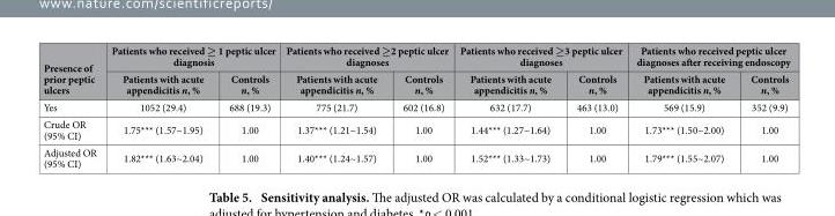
<table><thead><tr><td rowspan="2">Presence of prior peptic ulcers</td><td colspan="2">Patients who received ≥ 1 peptic ulcer diagnosis</td><td colspan="2">Patients who received ≥2 peptic ulcer diagnoses</td><td colspan="2">Patients who received ≥3 peptic ulcer diagnoses</td><td colspan="2">Patients who received peptic ulcer diagnoses after receiving endoscopy</td></tr><tr><td>Patients with acute appendicitis n, %</td><td>Controls n, %</td><td>Patients with acute appendicitis n, %</td><td>Controls n, %</td><td>Patients with acute appendicitis n, %</td><td>Controls n, %</td><td>Patients with acute appendicitis n, %</td><td>Controls n, %</td></tr></thead><tbody><tr><td>Yes</td><td>1052 (29.4)</td><td>688 (19.3)</td><td>775 (21.7)</td><td>602 (16.8)</td><td>632 (17.7)</td><td>463 (13.0)</td><td>569 (15.9)</td><td>352 (9.9)</td></tr><tr><td>Crude OR (95% CI)</td><td>1.75*** (1.57~1.95)</td><td>1.00</td><td>1.37*** (1.21~1.54)</td><td>1.00</td><td>1.44*** (1.27~1.64)</td><td>1.00</td><td>1.73*** (1.50~2.00)</td><td>1.00</td></tr><tr><td>Adjusted OR (95% CI)</td><td>1.82*** (1.63~2.04)</td><td>1.00</td><td>1.40*** (1.24~1.57)</td><td>1.00</td><td>1.52*** (1.33~1.73)</td><td>1.00</td><td>1.79*** (1.55~2.07)</td><td>1.00</td></tr></tbody></table>